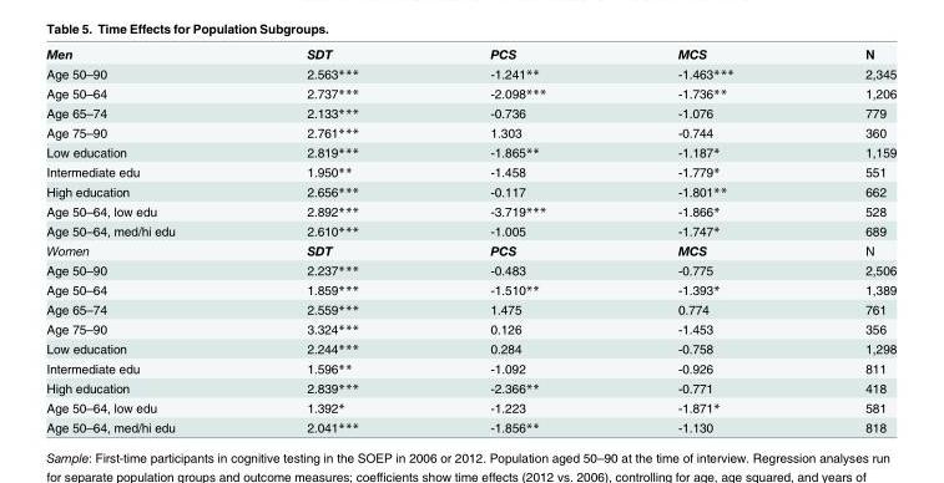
<table><tbody><tr><td>Men</td><td>SDT</td><td>PCS</td><td>MCS</td><td>N</td></tr><tr><td>Age 50–90</td><td>2.563***</td><td>-1.241**</td><td>-1.463***</td><td>2,345</td></tr><tr><td>Age 50–64</td><td>2.737***</td><td>-2.098***</td><td>-1.736**</td><td>1,206</td></tr><tr><td>Age 65–74</td><td>2.133***</td><td>-0.736</td><td>-1.076</td><td>779</td></tr><tr><td>Age 75–90</td><td>2.761***</td><td>1.303</td><td>-0.744</td><td>360</td></tr><tr><td>Low education</td><td>2.819***</td><td>-1.865**</td><td>-1.187*</td><td>1,159</td></tr><tr><td>Intermediate edu</td><td>1.950**</td><td>-1.458</td><td>-1.779*</td><td>551</td></tr><tr><td>High education</td><td>2.656***</td><td>-0.117</td><td>-1.801**</td><td>662</td></tr><tr><td>Age 50–64, low edu</td><td>2.892***</td><td>-3.719***</td><td>-1.866*</td><td>528</td></tr><tr><td>Age 50–64, med/hi edu</td><td>2.610***</td><td>-1.005</td><td>-1.747*</td><td>689</td></tr><tr><td>Women</td><td>SDT</td><td>PCS</td><td>MCS</td><td>N</td></tr><tr><td>Age 50–90</td><td>2.237***</td><td>-0.483</td><td>-0.775</td><td>2,506</td></tr><tr><td>Age 50–64</td><td>1.859***</td><td>-1.510**</td><td>-1.393*</td><td>1,389</td></tr><tr><td>Age 65–74</td><td>2.559***</td><td>1.475</td><td>0.774</td><td>761</td></tr><tr><td>Age 75–90</td><td>3.324***</td><td>0.126</td><td>-1.453</td><td>356</td></tr><tr><td>Low education</td><td>2.244***</td><td>0.284</td><td>-0.758</td><td>1,298</td></tr><tr><td>Intermediate edu</td><td>1.596**</td><td>-1.092</td><td>-0.926</td><td>811</td></tr><tr><td>High education</td><td>2.839***</td><td>-2.366**</td><td>-0.771</td><td>418</td></tr><tr><td>Age 50–64, low edu</td><td>1.392*</td><td>-1.223</td><td>-1.871*</td><td>581</td></tr><tr><td>Age 50–64, med/hi edu</td><td>2.041***</td><td>-1.856**</td><td>-1.130</td><td>818</td></tr></tbody></table>